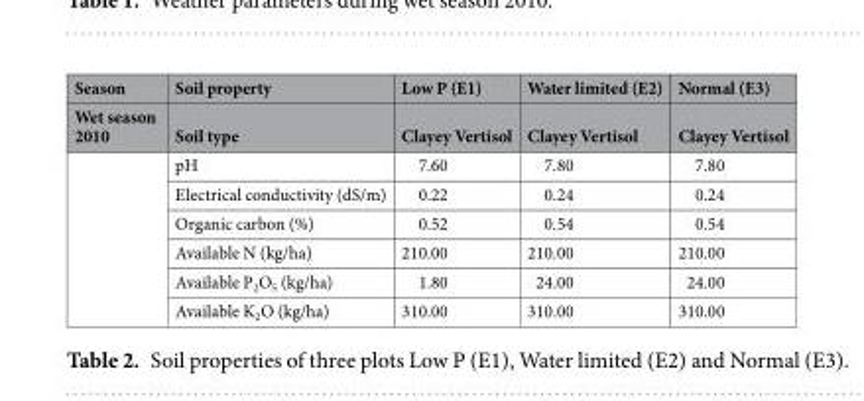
<table><thead><tr><td rowspan="2">Season Wet season 2010</td><td rowspan="2">Soil property Soil type</td><td rowspan="2">Low P (E1) Clayey Vertisol</td><td rowspan="2">Water limited (E2) Clayey Vertisol</td><td rowspan="2">Normal (E3) Clayey Vertisol</td></tr><tr></tr></thead><tbody><tr><td rowspan="6"></td><td>pH</td><td>7.60</td><td>7.80</td><td>7.80</td></tr><tr><td>Electrical conductivity (dS/m)</td><td>0.22</td><td>0.24</td><td>0.24</td></tr><tr><td>Organic carbon (%)</td><td>0.52</td><td>0.54</td><td>0.54</td></tr><tr><td>Available N (kg/ha)</td><td>210.00</td><td>210.00</td><td>210.00</td></tr><tr><td>Available P<sub>2</sub>O<sub>5</sub> (kg/ha)</td><td>1.80</td><td>24.00</td><td>24.00</td></tr><tr><td>Available K<sub>2</sub>O (kg/ha)</td><td>310.00</td><td>310.00</td><td>310.00</td></tr></tbody></table>